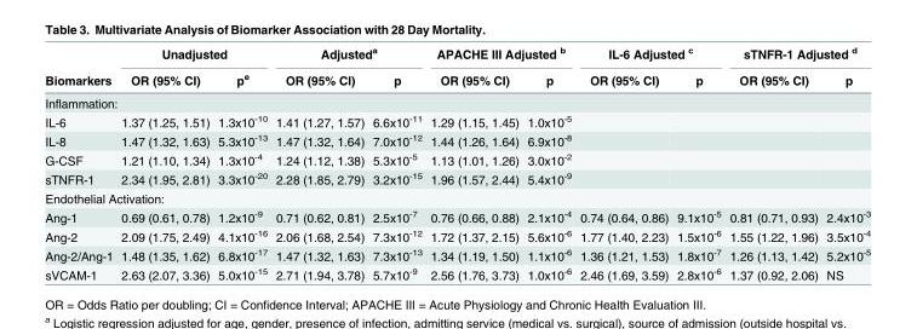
<table><thead><tr><td rowspan="2">Biomarkers</td><td colspan="2">Unadjusted</td><td colspan="2">Adjusted<sup>a</sup></td><td colspan="2">APACHE III Adjusted <sup>b</sup></td><td colspan="2">IL-6 Adjusted <sup>c</sup></td><td colspan="2">sTNFR-1 Adjusted <sup>d</sup></td></tr><tr><td>OR (95% CI)</td><td>p<sup>e</sup></td><td>OR (95% CI)</td><td>p</td><td>OR (95% CI)</td><td>p</td><td>OR (95% CI)</td><td>p</td><td>OR (95% CI)</td><td>p</td></tr></thead><tbody><tr><td colspan="11">Inflammation:</td></tr><tr><td>IL-6</td><td>1.37 (1.25, 1.51)</td><td>1.3x10<sup>-10</sup></td><td>1.41 (1.27, 1.57)</td><td>6.6x10<sup>-11</sup></td><td>1.29 (1.15, 1.45)</td><td>1.0x10<sup>-5</sup></td><td></td><td></td><td></td><td></td></tr><tr><td>IL-8</td><td>1.47 (1.32, 1.63)</td><td>5.3x10<sup>-13</sup></td><td>1.47 (1.32, 1.64)</td><td>7.0x10<sup>-12</sup></td><td>1.44 (1.26, 1.64)</td><td>6.9x10<sup>-8</sup></td><td></td><td></td><td></td><td></td></tr><tr><td>G-CSF</td><td>1.21 (1.10, 1.34)</td><td>1.3x10<sup>-4</sup></td><td>1.24 (1.12, 1.38)</td><td>5.3x10<sup>-5</sup></td><td>1.13 (1.01, 1.26)</td><td>3.0x10<sup>-2</sup></td><td></td><td></td><td></td><td></td></tr><tr><td>sTNFR-1</td><td>2.34 (1.95, 2.81)</td><td>3.3x10<sup>-20</sup></td><td>2.28 (1.85, 2.79)</td><td>3.2x10<sup>-15</sup></td><td>1.96 (1.57, 2.44)</td><td>5.4x10<sup>-9</sup></td><td></td><td></td><td></td><td></td></tr><tr><td colspan="11">Endothelial Activation:</td></tr><tr><td>Ang-1</td><td>0.69 (0.61, 0.78)</td><td>1.2x10<sup>-9</sup></td><td>0.71 (0.62, 0.81)</td><td>2.5x10<sup>-7</sup></td><td>0.76 (0.66, 0.88)</td><td>2.1x10<sup>-4</sup></td><td>0.74 (0.64, 0.86)</td><td>9.1x10<sup>-5</sup></td><td>0.81 (0.71, 0.93)</td><td>2.4x10<sup>-3</sup></td></tr><tr><td>Ang-2</td><td>2.09 (1.75, 2.49)</td><td>4.1x10<sup>-16</sup></td><td>2.06 (1.68, 2.54)</td><td>7.3x10<sup>-12</sup></td><td>1.72 (1.37, 2.15)</td><td>5.6x10<sup>-6</sup></td><td>1.77 (1.40, 2.23)</td><td>1.5x10<sup>-6</sup></td><td>1.55 (1.22, 1.96)</td><td>3.5x10<sup>-4</sup></td></tr><tr><td>Ang-2/Ang-1</td><td>1.48 (1.35, 1.62)</td><td>6.8x10<sup>-17</sup></td><td>1.47 (1.32, 1.63)</td><td>7.3x10<sup>-13</sup></td><td>1.34 (1.19, 1.50)</td><td>1.1x10<sup>-6</sup></td><td>1.36 (1.21, 1.53)</td><td>1.8x10<sup>-7</sup></td><td>1.26 (1.13, 1.42)</td><td>5.2x10<sup>-5</sup></td></tr><tr><td>sVCAM-1</td><td>2.63 (2.07, 3.36)</td><td>5.0x10<sup>-15</sup></td><td>2.71 (1.94, 3.78)</td><td>5.7x10<sup>-9</sup></td><td>2.56 (1.76, 3.73)</td><td>1.0x10<sup>-6</sup></td><td>2.46 (1.69, 3.59)</td><td>2.8x10<sup>-6</sup></td><td>1.37 (0.92, 2.06)</td><td>NS</td></tr></tbody></table>